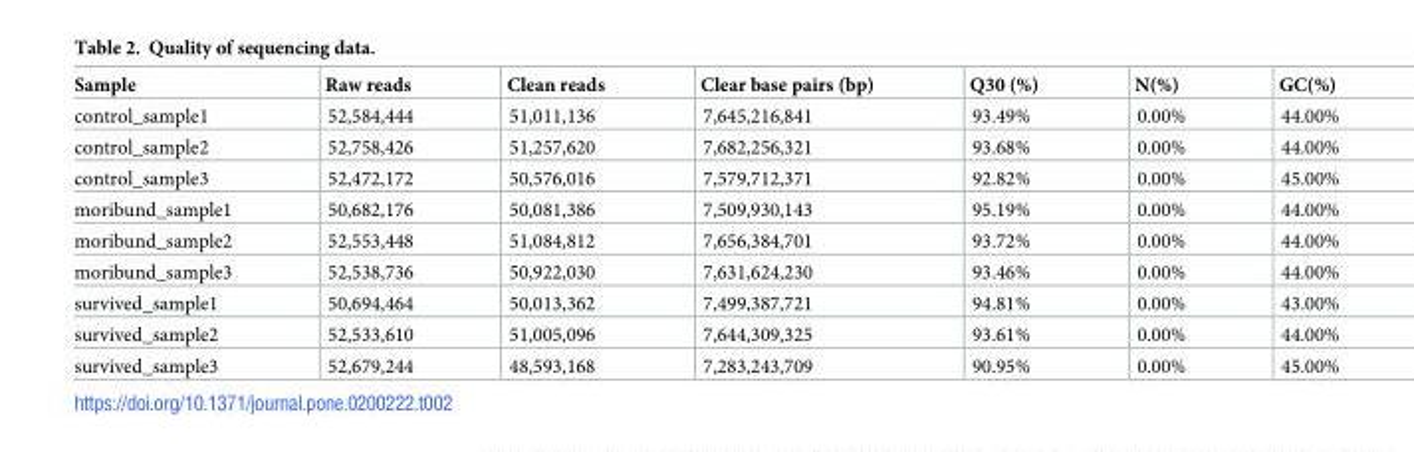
<table><thead><tr><td>Sample</td><td>Raw reads</td><td>Clean reads</td><td>Clear base pairs (bp)</td><td>Q30 (%)</td><td>N(%)</td><td>GC(%)</td></tr></thead><tbody><tr><td>control_sample1</td><td>52,584,444</td><td>51,011,136</td><td>7,645,216,841</td><td>93.49%</td><td>0.00%</td><td>44.00%</td></tr><tr><td>control_sample2</td><td>52,758,426</td><td>51,257,620</td><td>7,682,256,321</td><td>93.68%</td><td>0.00%</td><td>44.00%</td></tr><tr><td>control_sample3</td><td>52,472,172</td><td>50,576,016</td><td>7,579,712,371</td><td>92.82%</td><td>0.00%</td><td>45.00%</td></tr><tr><td>moribund_sample1</td><td>50,682,176</td><td>50,081,386</td><td>7,509,930,143</td><td>95.19%</td><td>0.00%</td><td>44.00%</td></tr><tr><td>moribund_sample2</td><td>52,553,448</td><td>51,084,812</td><td>7,656,384,701</td><td>93.72%</td><td>0.00%</td><td>44.00%</td></tr><tr><td>moribund_sample3</td><td>52,538,736</td><td>50,922,030</td><td>7,631,624,230</td><td>93.46%</td><td>0.00%</td><td>44.00%</td></tr><tr><td>survived_sample1</td><td>50,694,464</td><td>50,013,362</td><td>7,499,387,721</td><td>94.81%</td><td>0.00%</td><td>43.00%</td></tr><tr><td>survived_sample2</td><td>52,533,610</td><td>51,005,096</td><td>7,644,309,325</td><td>93.61%</td><td>0.00%</td><td>44.00%</td></tr><tr><td>survived_sample3</td><td>52,679,244</td><td>48,593,168</td><td>7,283,243,709</td><td>90.95%</td><td>0.00%</td><td>45.00%</td></tr></tbody></table>